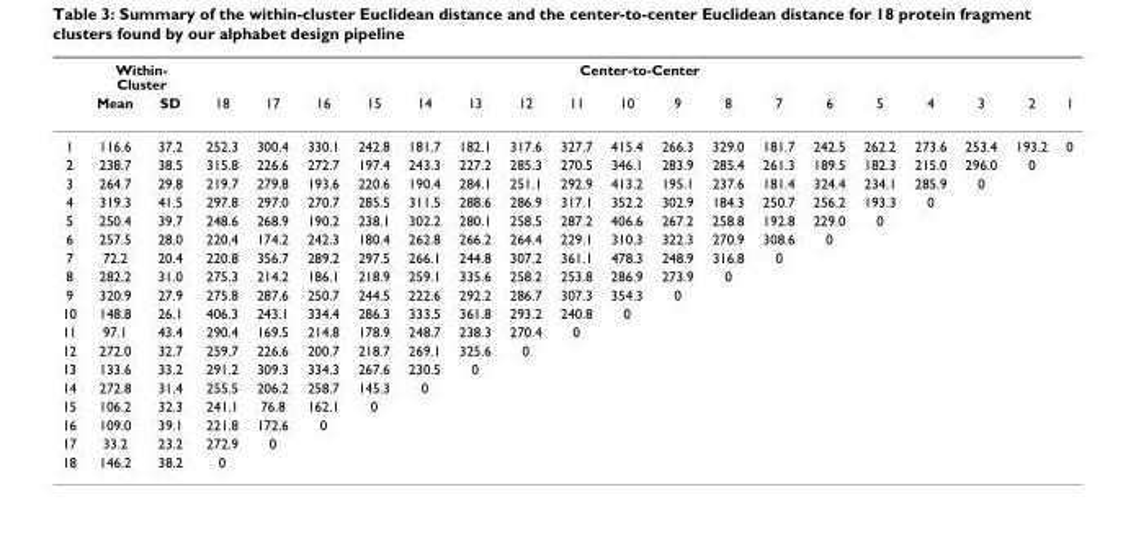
<table><thead><tr><td rowspan="2"></td><td colspan="2">Within- Cluster</td><td colspan="18">Center-to-Center</td></tr><tr><td>Mean</td><td>SD</td><td>18</td><td>17</td><td>16</td><td>15</td><td>14</td><td>13</td><td>12</td><td>11</td><td>10</td><td>9</td><td>8</td><td>7</td><td>6</td><td>5</td><td>4</td><td>3</td><td>2</td><td>1</td></tr></thead><tbody><tr><td>1</td><td>116.6</td><td>37.2</td><td>252.3</td><td>300.4</td><td>330.1</td><td>242.8</td><td>181.7</td><td>182.1</td><td>317.6</td><td>327.7</td><td>415.4</td><td>266.3</td><td>329.0</td><td>181.7</td><td>242.5</td><td>262.2</td><td>273.6</td><td>253.4</td><td>193.2</td><td>0</td></tr><tr><td>2</td><td>238.7</td><td>38.5</td><td>315.8</td><td>226.6</td><td>272.7</td><td>197.4</td><td>243.3</td><td>227.2</td><td>285.3</td><td>270.5</td><td>346.1</td><td>283.9</td><td>285.4</td><td>261.3</td><td>189.5</td><td>182.3</td><td>215.0</td><td>296.0</td><td>0</td><td></td></tr><tr><td>3</td><td>264.7</td><td>29.8</td><td>219.7</td><td>279.8</td><td>193.6</td><td>220.6</td><td>190.4</td><td>284.1</td><td>251.1</td><td>292.9</td><td>413.2</td><td>195.1</td><td>237.6</td><td>181.4</td><td>324.4</td><td>234.1</td><td>285.9</td><td>0</td><td></td><td></td></tr><tr><td>4</td><td>319.3</td><td>41.5</td><td>297.8</td><td>297.0</td><td>270.7</td><td>285.5</td><td>311.5</td><td>288.6</td><td>286.9</td><td>317.1</td><td>352.2</td><td>302.9</td><td>184.3</td><td>250.7</td><td>256.2</td><td>193.3</td><td>0</td><td></td><td></td><td></td></tr><tr><td>5</td><td>250.4</td><td>39.7</td><td>248.6</td><td>268.9</td><td>190.2</td><td>238.1</td><td>302.2</td><td>280.1</td><td>258.5</td><td>287.2</td><td>406.6</td><td>267.2</td><td>258.8</td><td>192.8</td><td>229.0</td><td>0</td><td></td><td></td><td></td><td></td></tr><tr><td>6</td><td>257.5</td><td>28.0</td><td>220.4</td><td>174.2</td><td>242.3</td><td>180.4</td><td>262.8</td><td>266.2</td><td>264.4</td><td>229.1</td><td>310.3</td><td>322.3</td><td>270.9</td><td>308.6</td><td>0</td><td></td><td></td><td></td><td></td><td></td></tr><tr><td>7</td><td>72.2</td><td>20.4</td><td>220.8</td><td>356.7</td><td>289.2</td><td>297.5</td><td>266.1</td><td>244.8</td><td>307.2</td><td>361.1</td><td>478.3</td><td>248.9</td><td>316.8</td><td>0</td><td></td><td></td><td></td><td></td><td></td><td></td></tr><tr><td>8</td><td>282.2</td><td>31.0</td><td>275.3</td><td>214.2</td><td>186.1</td><td>218.9</td><td>259.1</td><td>335.6</td><td>258.2</td><td>253.8</td><td>286.9</td><td>273.9</td><td>0</td><td></td><td></td><td></td><td></td><td></td><td></td><td></td></tr><tr><td>9</td><td>320.9</td><td>27.9</td><td>275.8</td><td>287.6</td><td>250.7</td><td>244.5</td><td>222.6</td><td>292.2</td><td>286.7</td><td>307.3</td><td>354.3</td><td>0</td><td></td><td></td><td></td><td></td><td></td><td></td><td></td><td></td></tr><tr><td>10</td><td>148.8</td><td>26.1</td><td>406.3</td><td>243.1</td><td>334.4</td><td>286.3</td><td>333.5</td><td>361.8</td><td>293.2</td><td>240.8</td><td>0</td><td></td><td></td><td></td><td></td><td></td><td></td><td></td><td></td><td></td></tr><tr><td>11</td><td>97.1</td><td>43.4</td><td>290.4</td><td>169.5</td><td>214.8</td><td>178.9</td><td>248.7</td><td>238.3</td><td>270.4</td><td>0</td><td></td><td></td><td></td><td></td><td></td><td></td><td></td><td></td><td></td><td></td></tr><tr><td>12</td><td>272.0</td><td>32.7</td><td>259.7</td><td>226.6</td><td>200.7</td><td>218.7</td><td>269.1</td><td>325.6</td><td>0</td><td></td><td></td><td></td><td></td><td></td><td></td><td></td><td></td><td></td><td></td><td></td></tr><tr><td>13</td><td>133.6</td><td>33.2</td><td>291.2</td><td>309.3</td><td>334.3</td><td>267.6</td><td>230.5</td><td>0</td><td></td><td></td><td></td><td></td><td></td><td></td><td></td><td></td><td></td><td></td><td></td><td></td></tr><tr><td>14</td><td>272.8</td><td>31.4</td><td>255.5</td><td>206.2</td><td>258.7</td><td>145.3</td><td>0</td><td></td><td></td><td></td><td></td><td></td><td></td><td></td><td></td><td></td><td></td><td></td><td></td><td></td></tr><tr><td>15</td><td>106.2</td><td>32.3</td><td>241.1</td><td>76.8</td><td>162.1</td><td>0</td><td></td><td></td><td></td><td></td><td></td><td></td><td></td><td></td><td></td><td></td><td></td><td></td><td></td><td></td></tr><tr><td>16</td><td>109.0</td><td>39.1</td><td>221.8</td><td>172.6</td><td>0</td><td></td><td></td><td></td><td></td><td></td><td></td><td></td><td></td><td></td><td></td><td></td><td></td><td></td><td></td><td></td></tr><tr><td>17</td><td>33.2</td><td>23.2</td><td>272.9</td><td>0</td><td></td><td></td><td></td><td></td><td></td><td></td><td></td><td></td><td></td><td></td><td></td><td></td><td></td><td></td><td></td><td></td></tr><tr><td>18</td><td>146.2</td><td>38.2</td><td>0</td><td></td><td></td><td></td><td></td><td></td><td></td><td></td><td></td><td></td><td></td><td></td><td></td><td></td><td></td><td></td><td></td><td></td></tr></tbody></table>